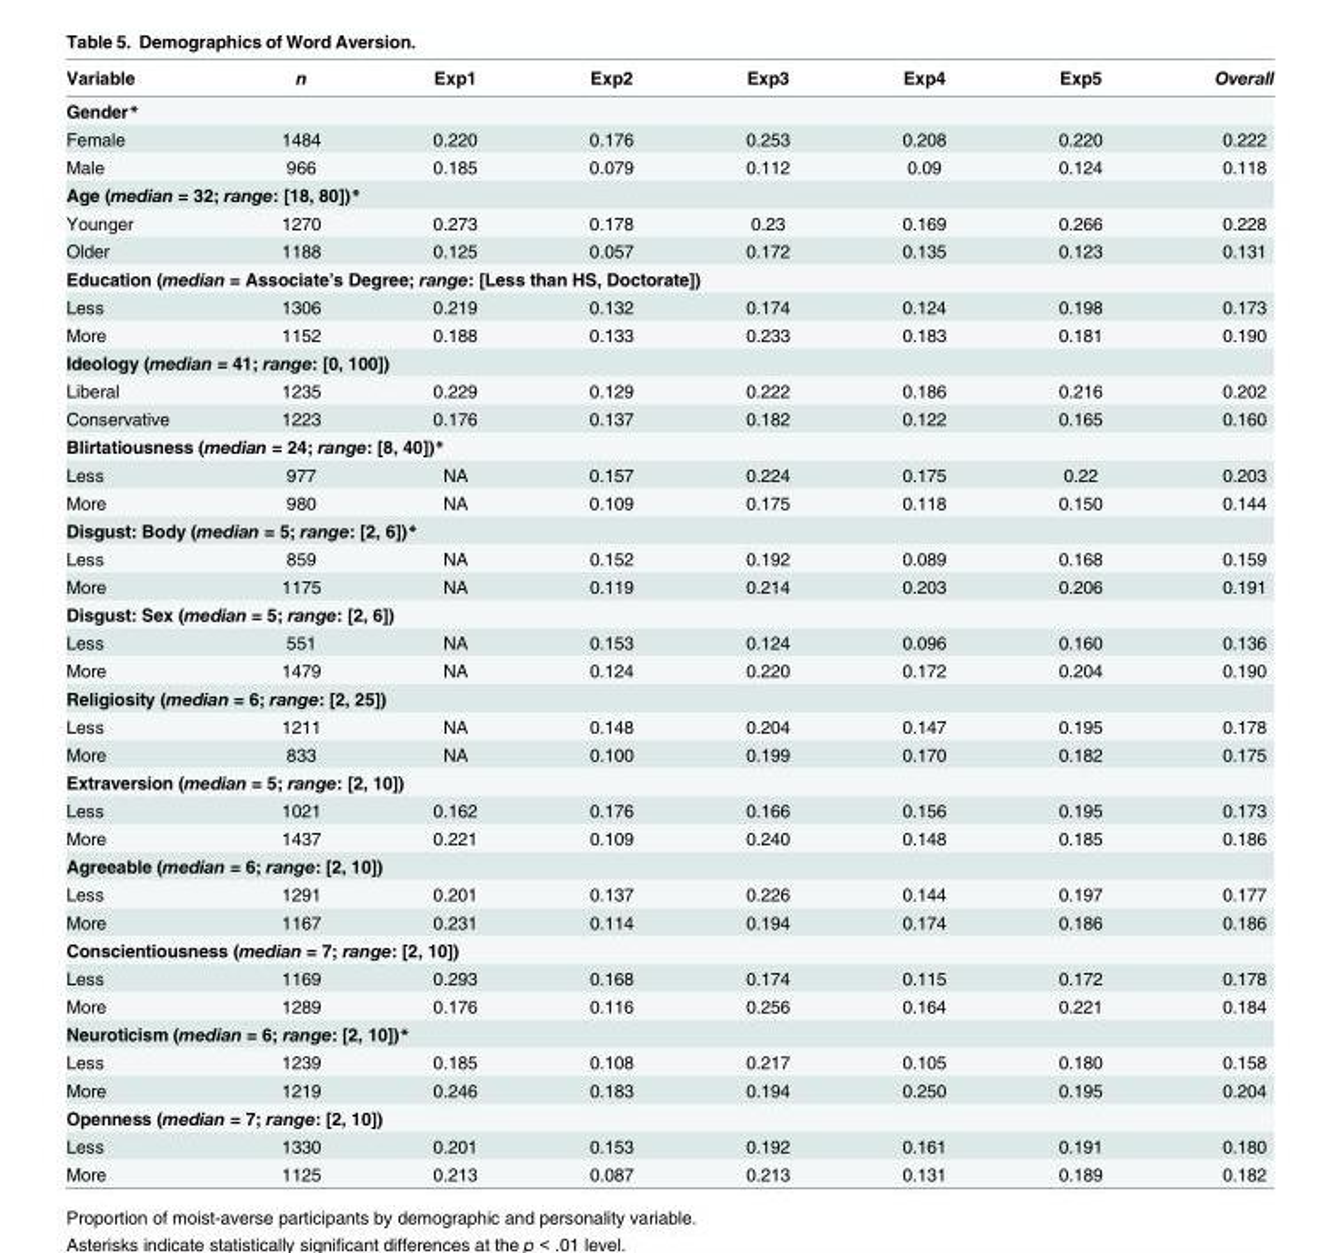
<table><thead><tr><td>Variable</td><td>n</td><td>Exp1</td><td>Exp2</td><td>Exp3</td><td>Exp4</td><td>Exp5</td><td>Overall</td></tr></thead><tbody><tr><td colspan="8">Gender*</td></tr><tr><td>Female</td><td>1484</td><td>0.220</td><td>0.176</td><td>0.253</td><td>0.208</td><td>0.220</td><td>0.222</td></tr><tr><td>Male</td><td>966</td><td>0.185</td><td>0.079</td><td>0.112</td><td>0.09</td><td>0.124</td><td>0.118</td></tr><tr><td colspan="8">Age (median = 32; range: [18, 80])*</td></tr><tr><td>Younger</td><td>1270</td><td>0.273</td><td>0.178</td><td>0.23</td><td>0.169</td><td>0.266</td><td>0.228</td></tr><tr><td>Older</td><td>1188</td><td>0.125</td><td>0.057</td><td>0.172</td><td>0.135</td><td>0.123</td><td>0.131</td></tr><tr><td colspan="8">Education (median = Associate’s Degree; range: [Less than HS, Doctorate])</td></tr><tr><td>Less</td><td>1306</td><td>0.219</td><td>0.132</td><td>0.174</td><td>0.124</td><td>0.198</td><td>0.173</td></tr><tr><td>More</td><td>1152</td><td>0.188</td><td>0.133</td><td>0.233</td><td>0.183</td><td>0.181</td><td>0.190</td></tr><tr><td colspan="8">Ideology (median = 41; range: [0, 100])</td></tr><tr><td>Liberal</td><td>1235</td><td>0.229</td><td>0.129</td><td>0.222</td><td>0.186</td><td>0.216</td><td>0.202</td></tr><tr><td>Conservative</td><td>1223</td><td>0.176</td><td>0.137</td><td>0.182</td><td>0.122</td><td>0.165</td><td>0.160</td></tr><tr><td colspan="8">Blirtatiousness (median = 24; range: [8, 40])*</td></tr><tr><td>Less</td><td>977</td><td>NA</td><td>0.157</td><td>0.224</td><td>0.175</td><td>0.22</td><td>0.203</td></tr><tr><td>More</td><td>980</td><td>NA</td><td>0.109</td><td>0.175</td><td>0.118</td><td>0.150</td><td>0.144</td></tr><tr><td colspan="8">Disgust: Body (median = 5; range: [2, 6])*</td></tr><tr><td>Less</td><td>859</td><td>NA</td><td>0.152</td><td>0.192</td><td>0.089</td><td>0.168</td><td>0.159</td></tr><tr><td>More</td><td>1175</td><td>NA</td><td>0.119</td><td>0.214</td><td>0.203</td><td>0.206</td><td>0.191</td></tr><tr><td colspan="8">Disgust: Sex (median = 5; range: [2, 6])</td></tr><tr><td>Less</td><td>551</td><td>NA</td><td>0.153</td><td>0.124</td><td>0.096</td><td>0.160</td><td>0.136</td></tr><tr><td>More</td><td>1479</td><td>NA</td><td>0.124</td><td>0.220</td><td>0.172</td><td>0.204</td><td>0.190</td></tr><tr><td colspan="8">Religiosity (median = 6; range: [2, 25])</td></tr><tr><td>Less</td><td>1211</td><td>NA</td><td>0.148</td><td>0.204</td><td>0.147</td><td>0.195</td><td>0.178</td></tr><tr><td>More</td><td>833</td><td>NA</td><td>0.100</td><td>0.199</td><td>0.170</td><td>0.182</td><td>0.175</td></tr><tr><td colspan="8">Extraversion (median = 5; range: [2, 10])</td></tr><tr><td>Less</td><td>1021</td><td>0.162</td><td>0.176</td><td>0.166</td><td>0.156</td><td>0.195</td><td>0.173</td></tr><tr><td>More</td><td>1437</td><td>0.221</td><td>0.109</td><td>0.240</td><td>0.148</td><td>0.185</td><td>0.186</td></tr><tr><td colspan="8">Agreeable (median = 6; range: [2, 10])</td></tr><tr><td>Less</td><td>1291</td><td>0.201</td><td>0.137</td><td>0.226</td><td>0.144</td><td>0.197</td><td>0.177</td></tr><tr><td>More</td><td>1167</td><td>0.231</td><td>0.114</td><td>0.194</td><td>0.174</td><td>0.186</td><td>0.186</td></tr><tr><td colspan="8">Conscientiousness (median = 7; range: [2, 10])</td></tr><tr><td>Less</td><td>1169</td><td>0.293</td><td>0.168</td><td>0.174</td><td>0.115</td><td>0.172</td><td>0.178</td></tr><tr><td>More</td><td>1289</td><td>0.176</td><td>0.116</td><td>0.256</td><td>0.164</td><td>0.221</td><td>0.184</td></tr><tr><td colspan="8">Neuroticism (median = 6; range: [2, 10])*</td></tr><tr><td>Less</td><td>1239</td><td>0.185</td><td>0.108</td><td>0.217</td><td>0.105</td><td>0.180</td><td>0.158</td></tr><tr><td>More</td><td>1219</td><td>0.246</td><td>0.183</td><td>0.194</td><td>0.250</td><td>0.195</td><td>0.204</td></tr><tr><td colspan="8">Openness (median = 7; range: [2, 10])</td></tr><tr><td>Less</td><td>1330</td><td>0.201</td><td>0.153</td><td>0.192</td><td>0.161</td><td>0.191</td><td>0.180</td></tr><tr><td>More</td><td>1125</td><td>0.213</td><td>0.087</td><td>0.213</td><td>0.131</td><td>0.189</td><td>0.182</td></tr></tbody></table>